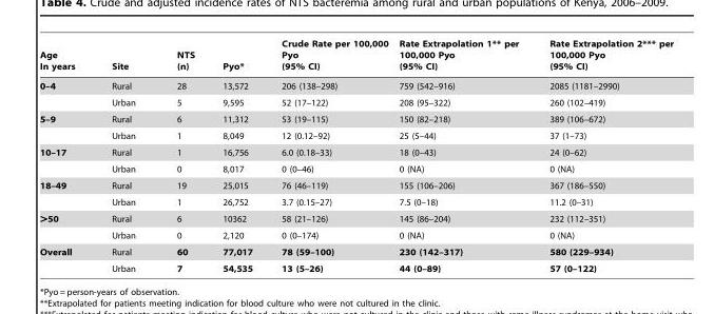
<table><thead><tr><td>Age In years</td><td>Site</td><td>NTS (n)</td><td>Pyo*</td><td>Crude Rate per 100,000 Pyo (95% CI)</td><td>Rate Extrapolation 1** per 100,000 Pyo (95% CI)</td><td>Rate Extrapolation 2*** per 100,000 Pyo (95% CI)</td></tr></thead><tbody><tr><td rowspan="2">0–4</td><td>Rural</td><td>28</td><td>13,572</td><td>206 (138–298)</td><td>759 (542–916)</td><td>2085 (1181–2990)</td></tr><tr><td>Urban</td><td>5</td><td>9,595</td><td>52 (17–122)</td><td>208 (95–322)</td><td>260 (102–419)</td></tr><tr><td rowspan="2">5–9</td><td>Rural</td><td>6</td><td>11,312</td><td>53 (19–115)</td><td>150 (82–218)</td><td>389 (106–672)</td></tr><tr><td>Urban</td><td>1</td><td>8,049</td><td>12 (0.12–92)</td><td>25 (5–44)</td><td>37 (1–73)</td></tr><tr><td rowspan="2">10–17</td><td>Rural</td><td>1</td><td>16,756</td><td>6.0 (0.18–33)</td><td>18 (0–43)</td><td>24 (0–62)</td></tr><tr><td>Urban</td><td>0</td><td>8,017</td><td>0 (0–46)</td><td>0 (NA)</td><td>0 (NA)</td></tr><tr><td rowspan="2">18–49</td><td>Rural</td><td>19</td><td>25,015</td><td>76 (46–119)</td><td>155 (106–206)</td><td>367 (186–550)</td></tr><tr><td>Urban</td><td>1</td><td>26,752</td><td>3.7 (0.15–27)</td><td>7.5 (0–18)</td><td>11.2 (0–31)</td></tr><tr><td rowspan="2">&gt;50</td><td>Rural</td><td>6</td><td>10362</td><td>58 (21–126)</td><td>145 (86–204)</td><td>232 (112–351)</td></tr><tr><td>Urban</td><td>0</td><td>2,120</td><td>0 (0–174)</td><td>0 (NA)</td><td>0 (NA)</td></tr><tr><td rowspan="2">Overall</td><td>Rural</td><td>60</td><td>77,017</td><td>78 (59–100)</td><td>230 (142–317)</td><td>580 (229–934)</td></tr><tr><td>Urban</td><td>7</td><td>54,535</td><td>13 (5–26)</td><td>44 (0–89)</td><td>57 (0–122)</td></tr></tbody></table>